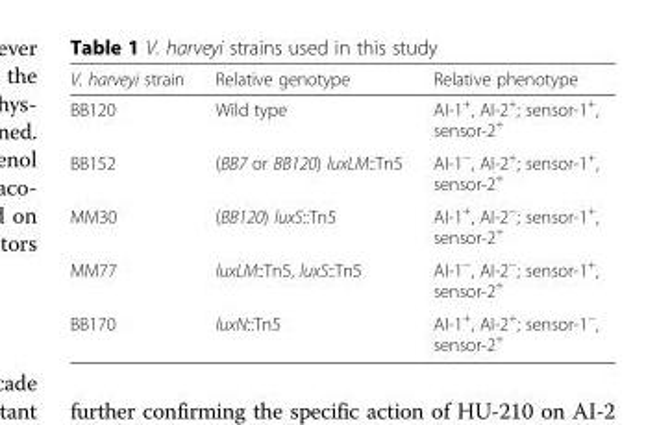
<table><thead><tr><td>V. harveyi strain</td><td>Relative genotype</td><td>Relative phenotype</td></tr></thead><tbody><tr><td>BB120</td><td>Wild type</td><td>AI-1<sup>+</sup>, AI-2<sup>+</sup>; sensor-1<sup>+</sup>, sensor-2<sup>+</sup></td></tr><tr><td>BB152</td><td>(BB7 or BB120) luxLM::Tn5</td><td>AI-1<sup>−</sup>, AI-2<sup>+</sup>; sensor-1<sup>+</sup>, sensor-2<sup>+</sup></td></tr><tr><td>MM30</td><td>(BB120) luxS::Tn5</td><td>AI-1<sup>+</sup>, AI-2<sup>−</sup>; sensor-1<sup>+</sup>, sensor-2<sup>+</sup></td></tr><tr><td>MM77</td><td>luxLM::Tn5, luxS::Tn5</td><td>AI-1<sup>−</sup>, AI-2<sup>−</sup>; sensor-1<sup>+</sup>, sensor-2<sup>+</sup></td></tr><tr><td>BB170</td><td>luxN::Tn5</td><td>AI-1<sup>+</sup>, AI-2<sup>+</sup>; sensor-1<sup>−</sup>, sensor-2<sup>+</sup></td></tr></tbody></table>